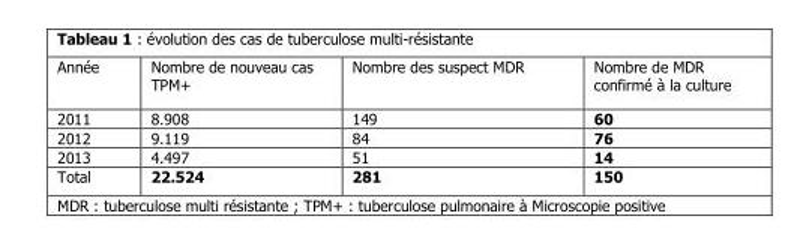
<table><thead><tr><td>Année</td><td>Nombre de nouveau cas TPM+</td><td>Nombre des suspect MDR</td><td>Nombre de MDR confirmé à la culture</td></tr></thead><tbody><tr><td>2011</td><td>8.908</td><td>149</td><td>60</td></tr><tr><td>2012</td><td>9.119</td><td>84</td><td>76</td></tr><tr><td>2013</td><td>4.497</td><td>51</td><td>14</td></tr><tr><td>Total</td><td>22.524</td><td>281</td><td>150</td></tr></tbody></table>